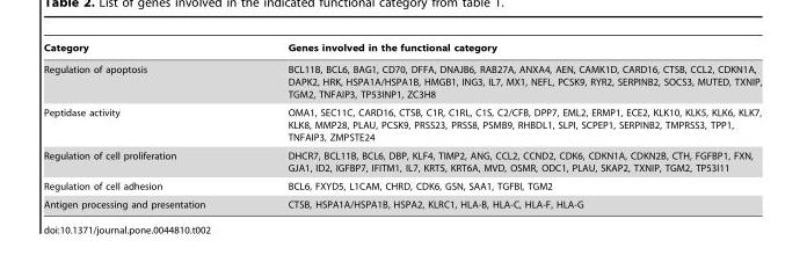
<table><thead><tr><td>Category</td><td>Genes involved in the functional category</td></tr></thead><tbody><tr><td>Regulation of apoptosis</td><td>BCL11B, BCL6, BAG1, CD70, DFFA, DNAJB6, RAB27A, ANXA4, AEN, CAMK1D, CARD16, CTSB, CCL2, CDKN1A, DAPK2, HRK, HSPA1A/HSPA1B, HMGB1, ING3, IL7, MX1, NEFL, PCSK9, RYR2, SERPINB2, SOCS3, MUTED, TXNIP, TGM2, TNFAIP3, TP53INP1, ZC3H8</td></tr><tr><td>Peptidase activity</td><td>OMA1, SEC11C, CARD16, CTSB, C1R, C1RL, C1S, C2/CFB, DPP7, EML2, ERMP1, ECE2, KLK10, KLK5, KLK6, KLK7, KLK8, MMP28, PLAU, PCSK9, PRSS23, PRSS8, PSMB9, RHBDL1, SLPI, SCPEP1, SERPINB2, TMPRSS3, TPP1, TNFAIP3, ZMPSTE24</td></tr><tr><td>Regulation of cell proliferation</td><td>DHCR7, BCL11B, BCL6, DBP, KLF4, TIMP2, ANG, CCL2, CCND2, CDK6, CDKN1A, CDKN2B, CTH, FGFBP1, FXN, GJA1, ID2, IGFBP7, IFITM1, IL7, KRT5, KRT6A, MVD, OSMR, ODC1, PLAU, SKAP2, TXNIP, TGM2, TP53I11</td></tr><tr><td>Regulation of cell adhesion</td><td>BCL6, FXYD5, L1CAM, CHRD, CDK6, GSN, SAA1, TGFBI, TGM2</td></tr><tr><td>Antigen processing and presentation</td><td>CTSB, HSPA1A/HSPA1B, HSPA2, KLRC1, HLA-B, HLA-C, HLA-F, HLA-G</td></tr></tbody></table>